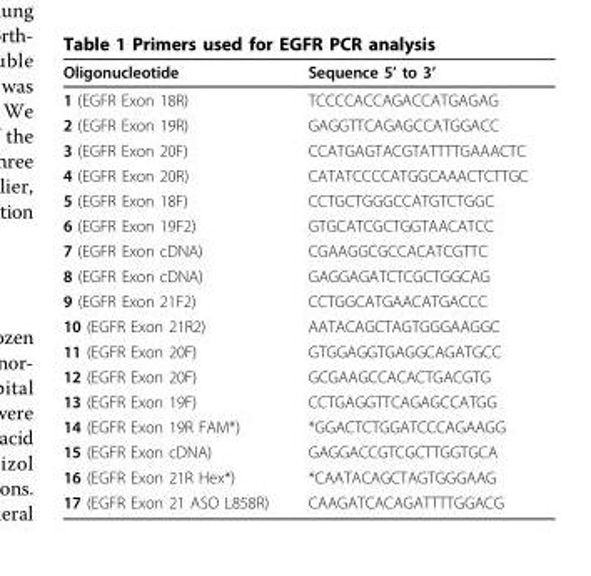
<table><thead><tr><td>Oligonucleotide</td><td>Sequence 5’ to 3’</td></tr></thead><tbody><tr><td>1 (EGFR Exon 18R)</td><td>TCCCCACCAGACCATGAGAG</td></tr><tr><td>2 (EGFR Exon 19R)</td><td>GAGGTTCAGAGCCATGGACC</td></tr><tr><td>3 (EGFR Exon 20F)</td><td>CCATGAGTACGTATTTTGAAACTC</td></tr><tr><td>4 (EGFR Exon 20R)</td><td>CATATCCCCATGGCAAACTCTTGC</td></tr><tr><td>5 (EGFR Exon 18F)</td><td>CCTGCTGGGCCATGTCTGGC</td></tr><tr><td>6 (EGFR Exon 19F2)</td><td>GTGCATCGCTGGTAACATCC</td></tr><tr><td>7 (EGFR Exon cDNA)</td><td>CGAAGGCGCCACATCGTTC</td></tr><tr><td>8 (EGFR Exon cDNA)</td><td>GAGGAGATCTCGCTGGCAG</td></tr><tr><td>9 (EGFR Exon 21F2)</td><td>CCTGGCATGAACATGACCC</td></tr><tr><td>10 (EGFR Exon 21R2)</td><td>AATACAGCTAGTGGGAAGGC</td></tr><tr><td>11 (EGFR Exon 20F)</td><td>GTGGAGGTGAGGCAGATGCC</td></tr><tr><td>12 (EGFR Exon 20F)</td><td>GCGAAGCCACACTGACGTG</td></tr><tr><td>13 (EGFR Exon 19F)</td><td>CCTGAGGTTCAGAGCCATGG</td></tr><tr><td>14 (EGFR Exon 19R FAM*)</td><td>*GGACTCTGGATCCCAGAAGG</td></tr><tr><td>15 (EGFR Exon cDNA)</td><td>GAGGACCGTCGCTTGGTGCA</td></tr><tr><td>16 (EGFR Exon 21R Hex*)</td><td>*CAATACAGCTAGTGGGAAG</td></tr><tr><td>17 (EGFR Exon 21 ASO L858R)</td><td>CAAGATCACAGATTTTGGACG</td></tr></tbody></table>